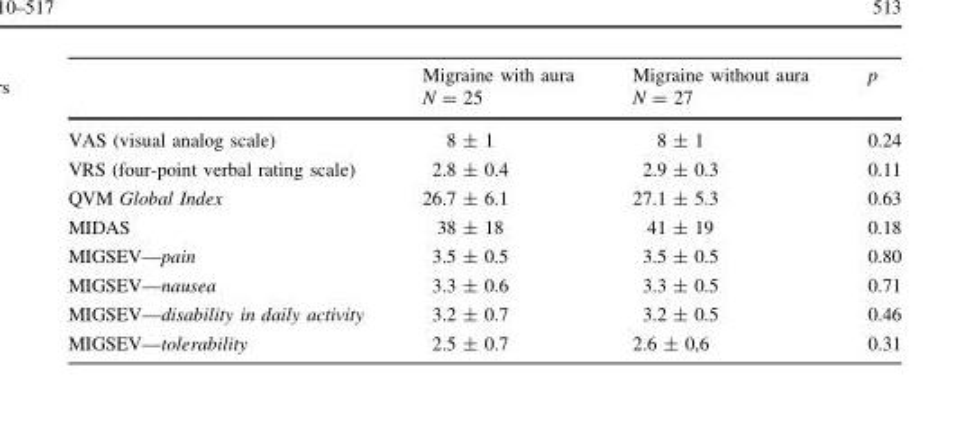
<table><thead><tr><td></td><td>Migraine with aura N = 25</td><td>Migraine without aura N = 27</td><td>p</td></tr></thead><tbody><tr><td>VAS (visual analog scale)</td><td>8 ± 1</td><td>8 ± 1</td><td>0.24</td></tr><tr><td>VRS (four-point verbal rating scale)</td><td>2.8 ± 0.4</td><td>2.9 ± 0.3</td><td>0.11</td></tr><tr><td>QVM Global Index</td><td>26.7 ± 6.1</td><td>27.1 ± 5.3</td><td>0.63</td></tr><tr><td>MIDAS</td><td>38 ± 18</td><td>41 ± 19</td><td>0.18</td></tr><tr><td>MIGSEV—pain</td><td>3.5 ± 0.5</td><td>3.5 ± 0.5</td><td>0.80</td></tr><tr><td>MIGSEV—nausea</td><td>3.3 ± 0.6</td><td>3.3 ± 0.5</td><td>0.71</td></tr><tr><td>MIGSEV—disability in daily activity</td><td>3.2 ± 0.7</td><td>3.2 ± 0.5</td><td>0.46</td></tr><tr><td>MIGSEV—tolerability</td><td>2.5 ± 0.7</td><td>2.6 ± 0,6</td><td>0.31</td></tr></tbody></table>